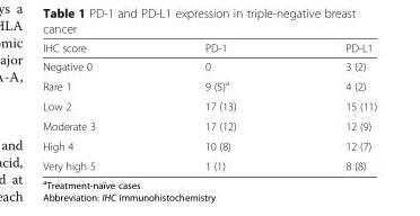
<table><thead><tr><td>IHC score</td><td>PD-1</td><td>PD-L1</td></tr></thead><tbody><tr><td>Negative 0</td><td>0</td><td>3 (2)</td></tr><tr><td>Rare 1</td><td>9 (5)<sup>a</sup></td><td>4 (2)</td></tr><tr><td>Low 2</td><td>17 (13)</td><td>15 (11)</td></tr><tr><td>Moderate 3</td><td>17 (12)</td><td>12 (9)</td></tr><tr><td>High 4</td><td>10 (8)</td><td>12 (7)</td></tr><tr><td>Very high 5</td><td>1 (1)</td><td>8 (8)</td></tr></tbody></table>